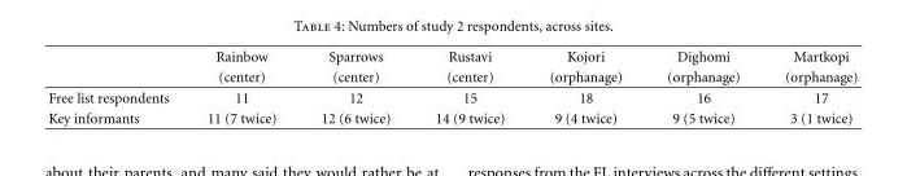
<table><thead><tr><td rowspan="2"></td><td rowspan="2">Rainbow (center)</td><td rowspan="2">Sparrows (center)</td><td rowspan="2">Rustavi (center)</td><td rowspan="2">Kojori (orphanage)</td><td rowspan="2">Dighomi (orphanage)</td><td rowspan="2">Martkopi (orphanage)</td></tr><tr></tr></thead><tbody><tr><td>Free list respondents</td><td>11</td><td>12</td><td>15</td><td>18</td><td>16</td><td>17</td></tr><tr><td>Key informants</td><td>11 (7 twice)</td><td>12 (6 twice)</td><td>14 (9 twice)</td><td>9 (4 twice)</td><td>9 (5 twice)</td><td>3 (1 twice)</td></tr></tbody></table>